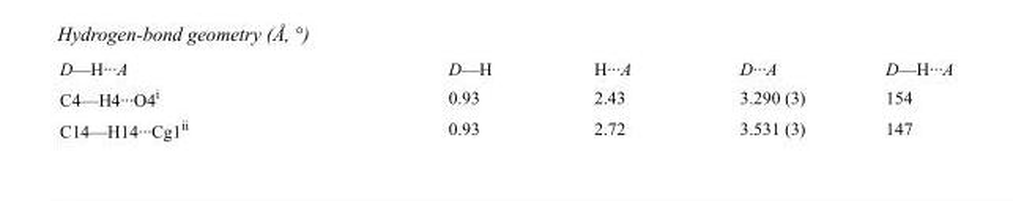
<table><tbody><tr><td>D—H···A</td><td>D—H</td><td>H···A</td><td>D···A</td><td>D—H···A</td></tr><tr><td>C4—H4···O4<sup>i</sup></td><td>0.93</td><td>2.43</td><td>3.290 (3)</td><td>154</td></tr><tr><td>C14—H14···Cg1<sup>ii</sup></td><td>0.93</td><td>2.72</td><td>3.531 (3)</td><td>147</td></tr></tbody></table>